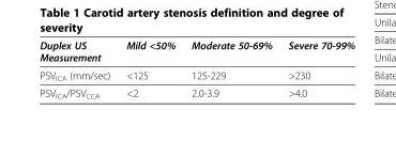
<table><thead><tr><td>Duplex US Measurement</td><td>Mild &lt;50%</td><td>Moderate 50-69%</td><td>Severe 70-99%</td></tr></thead><tbody><tr><td>PSV<sub>ICA</sub> (mm/sec)</td><td>&lt;125</td><td>125-229</td><td>&gt;230</td></tr><tr><td>PSV<sub>ICA</sub>/PSV<sub>CCA</sub></td><td>&lt;2</td><td>2.0-3.9</td><td>&gt;4.0</td></tr></tbody></table>